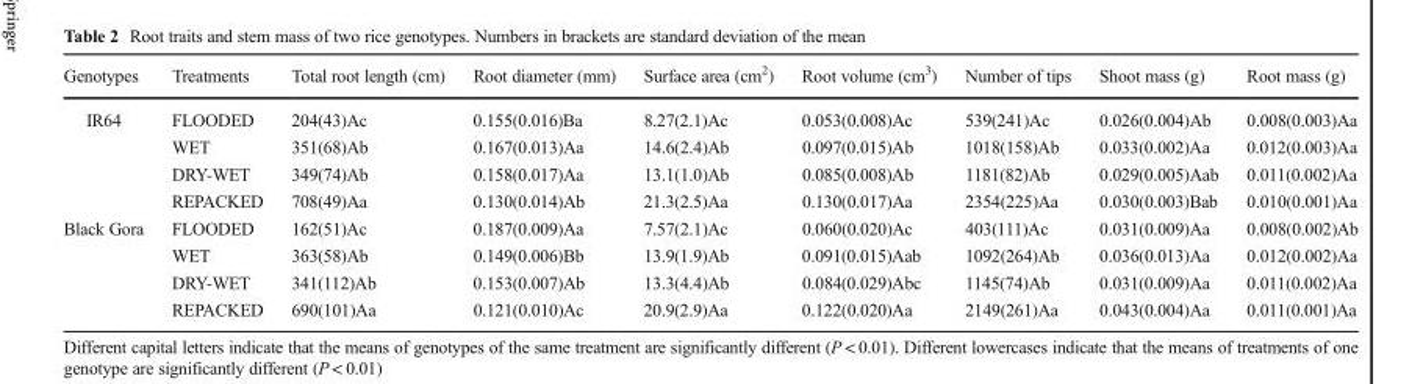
<table><thead><tr><td>Genotypes</td><td>Treatments</td><td>Total root length (cm)</td><td>Root diameter (mm)</td><td>Surface area (cm<sup>2</sup>)</td><td>Root volume (cm<sup>3</sup>)</td><td>Number of tips</td><td>Shoot mass (g)</td><td>Root mass (g)</td></tr></thead><tbody><tr><td rowspan="4">IR64</td><td>FLOODED</td><td>204(43)Ac</td><td>0.155(0.016)Ba</td><td>8.27(2.1)Ac</td><td>0.053(0.008)Ac</td><td>539(241)Ac</td><td>0.026(0.004)Ab</td><td>0.008(0.003)Aa</td></tr><tr><td>WET</td><td>351(68)Ab</td><td>0.167(0.013)Aa</td><td>14.6(2.4)Ab</td><td>0.097(0.015)Ab</td><td>1018(158)Ab</td><td>0.033(0.002)Aa</td><td>0.012(0.003)Aa</td></tr><tr><td>DRY-WET</td><td>349(74)Ab</td><td>0.158(0.017)Aa</td><td>13.1(1.0)Ab</td><td>0.085(0.008)Ab</td><td>1181(82)Ab</td><td>0.029(0.005)Aab</td><td>0.011(0.002)Aa</td></tr><tr><td>REPACKED</td><td>708(49)Aa</td><td>0.130(0.014)Ab</td><td>21.3(2.5)Aa</td><td>0.130(0.017)Aa</td><td>2354(225)Aa</td><td>0.030(0.003)Bab</td><td>0.010(0.001)Aa</td></tr><tr><td rowspan="4">Black Gora</td><td>FLOODED</td><td>162(51)Ac</td><td>0.187(0.009)Aa</td><td>7.57(2.1)Ac</td><td>0.060(0.020)Ac</td><td>403(111)Ac</td><td>0.031(0.009)Aa</td><td>0.008(0.002)Ab</td></tr><tr><td>WET</td><td>363(58)Ab</td><td>0.149(0.006)Bb</td><td>13.9(1.9)Ab</td><td>0.091(0.015)Aab</td><td>1092(264)Ab</td><td>0.036(0.013)Aa</td><td>0.012(0.002)Aa</td></tr><tr><td>DRY-WET</td><td>341(112)Ab</td><td>0.153(0.007)Ab</td><td>13.3(4.4)Ab</td><td>0.084(0.029)Abc</td><td>1145(74)Ab</td><td>0.031(0.009)Aa</td><td>0.011(0.002)Aa</td></tr><tr><td>REPACKED</td><td>690(101)Aa</td><td>0.121(0.010)Ac</td><td>20.9(2.9)Aa</td><td>0.122(0.020)Aa</td><td>2149(261)Aa</td><td>0.043(0.004)Aa</td><td>0.011(0.001)Aa</td></tr></tbody></table>